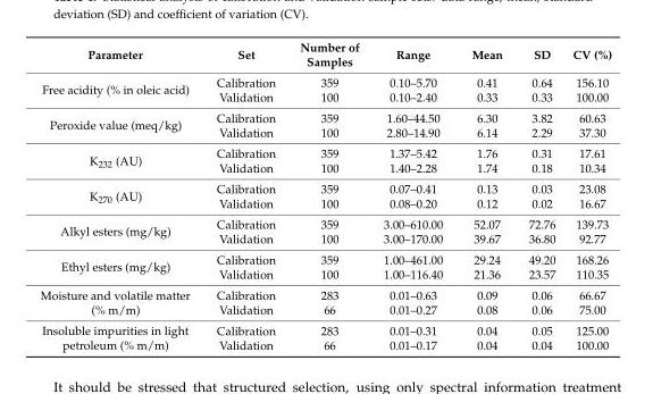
<table><thead><tr><td>Parameter</td><td>Set</td><td>Number of Samples</td><td>Range</td><td>Mean</td><td>SD</td><td>CV (%)</td></tr></thead><tbody><tr><td rowspan="2">Free acidity (% in oleic acid)</td><td>Calibration</td><td>359</td><td>0.10–5.70</td><td>0.41</td><td>0.64</td><td>156.10</td></tr><tr><td>Validation</td><td>100</td><td>0.10–2.40</td><td>0.33</td><td>0.33</td><td>100.00</td></tr><tr><td rowspan="2">Peroxide value (meq/kg)</td><td>Calibration</td><td>359</td><td>1.60–44.50</td><td>6.30</td><td>3.82</td><td>60.63</td></tr><tr><td>Validation</td><td>100</td><td>2.80–14.90</td><td>6.14</td><td>2.29</td><td>37.30</td></tr><tr><td rowspan="2">K<sub>232</sub> (AU)</td><td>Calibration</td><td>359</td><td>1.37–5.42</td><td>1.76</td><td>0.31</td><td>17.61</td></tr><tr><td>Validation</td><td>100</td><td>1.40–2.28</td><td>1.74</td><td>0.18</td><td>10.34</td></tr><tr><td rowspan="2">K<sub>270</sub> (AU)</td><td>Calibration</td><td>359</td><td>0.07–0.41</td><td>0.13</td><td>0.03</td><td>23.08</td></tr><tr><td>Validation</td><td>100</td><td>0.08–0.20</td><td>0.12</td><td>0.02</td><td>16.67</td></tr><tr><td rowspan="2">Alkyl esters (mg/kg)</td><td>Calibration</td><td>359</td><td>3.00–610.00</td><td>52.07</td><td>72.76</td><td>139.73</td></tr><tr><td>Validation</td><td>100</td><td>3.00–170.00</td><td>39.67</td><td>36.80</td><td>92.77</td></tr><tr><td rowspan="2">Ethyl esters (mg/kg)</td><td>Calibration</td><td>359</td><td>1.00–461.00</td><td>29.24</td><td>49.20</td><td>168.26</td></tr><tr><td>Validation</td><td>100</td><td>1.00–116.40</td><td>21.36</td><td>23.57</td><td>110.35</td></tr><tr><td rowspan="2">Moisture and volatile matter (% m/m)</td><td>Calibration</td><td>283</td><td>0.01–0.63</td><td>0.09</td><td>0.06</td><td>66.67</td></tr><tr><td>Validation</td><td>66</td><td>0.01–0.27</td><td>0.08</td><td>0.06</td><td>75.00</td></tr><tr><td rowspan="2">Insoluble impurities in light petroleum (% m/m)</td><td>Calibration</td><td>283</td><td>0.01–0.31</td><td>0.04</td><td>0.05</td><td>125.00</td></tr><tr><td>Validation</td><td>66</td><td>0.01–0.17</td><td>0.04</td><td>0.04</td><td>100.00</td></tr></tbody></table>